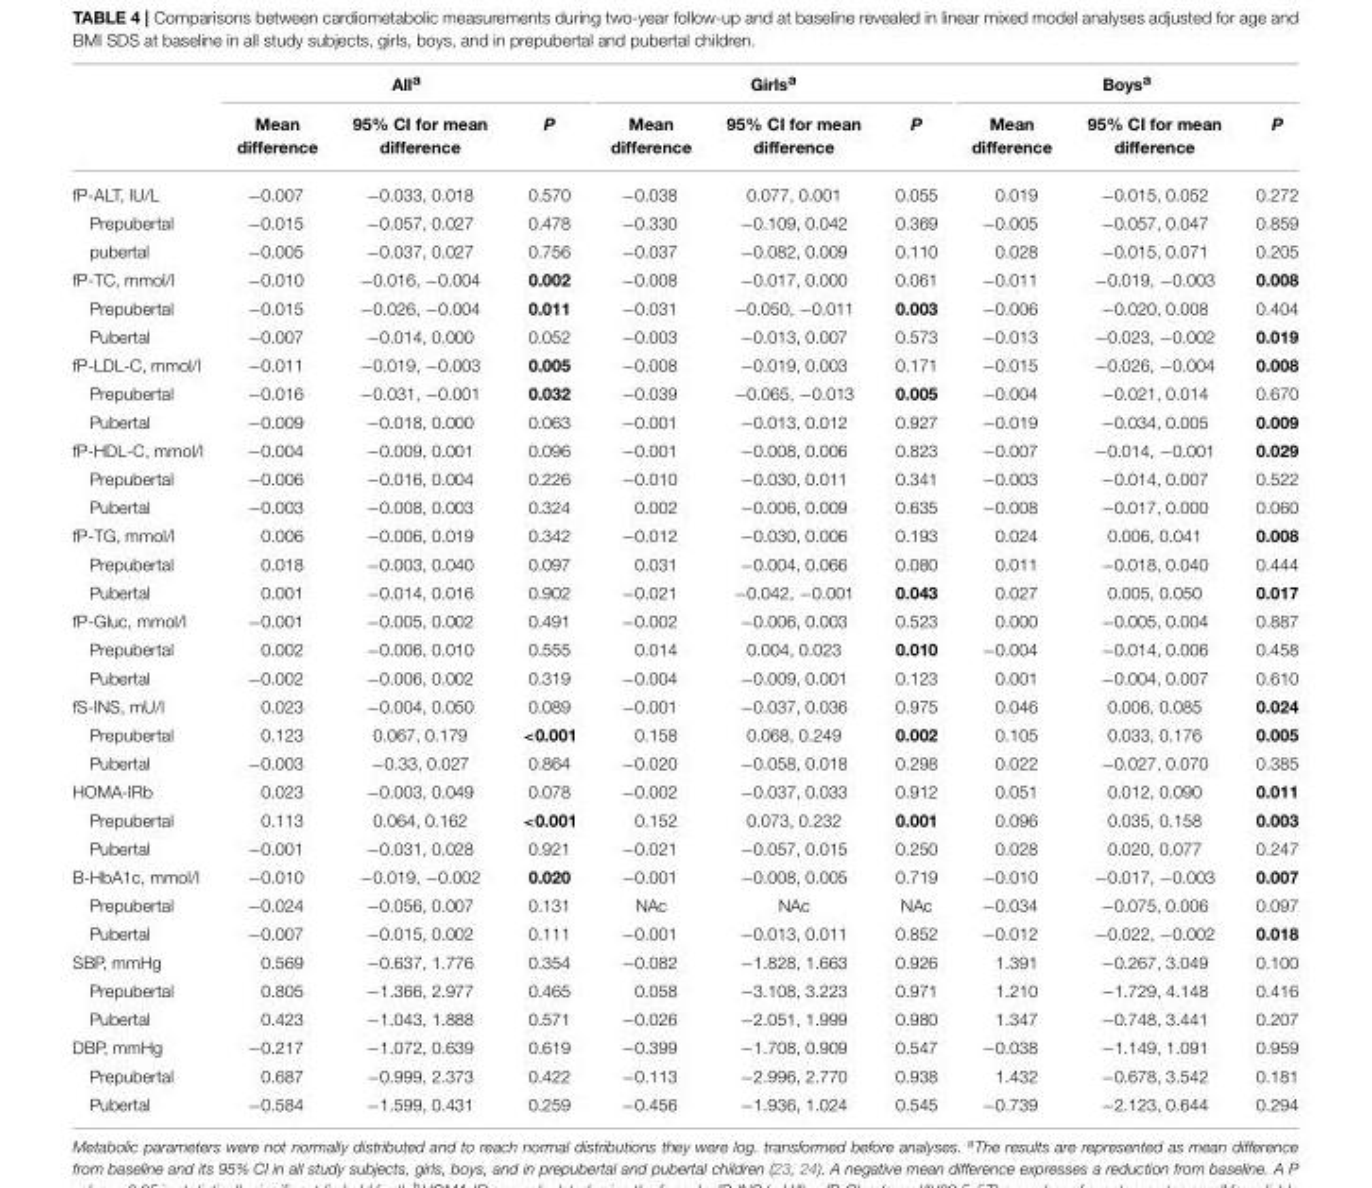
<table><thead><tr><td rowspan="2"></td><td colspan="3">All<sup>a</sup></td><td colspan="3">Girls<sup>a</sup></td><td colspan="3">Boys<sup>a</sup></td></tr><tr><td>Mean difference</td><td>95% CI for mean difference</td><td>P</td><td>Mean difference</td><td>95% CI for mean difference</td><td>P</td><td>Mean difference</td><td>95% CI for mean difference</td><td>P</td></tr></thead><tbody><tr><td>fP-ALT, IU/L</td><td>−0.007</td><td>−0.033, 0.018</td><td>0.570</td><td>−0.038</td><td>0.077, 0.001</td><td>0.055</td><td>0.019</td><td>−0.015, 0.052</td><td>0.272</td></tr><tr><td>Prepubertal</td><td>−0.015</td><td>−0.057, 0.027</td><td>0.478</td><td>−0.330</td><td>−0.109, 0.042</td><td>0.369</td><td>−0.005</td><td>−0.057, 0.047</td><td>0.859</td></tr><tr><td>pubertal</td><td>−0.005</td><td>−0.037, 0.027</td><td>0.756</td><td>−0.037</td><td>−0.082, 0.009</td><td>0.110</td><td>0.028</td><td>−0.015, 0.071</td><td>0.205</td></tr><tr><td>fP-TC, mmol/l</td><td>−0.010</td><td>−0.016, −0.004</td><td>0.002</td><td>−0.008</td><td>−0.017, 0.000</td><td>0.061</td><td>−0.011</td><td>−0.019, −0.003</td><td>0.008</td></tr><tr><td>Prepubertal</td><td>−0.015</td><td>−0.026, −0.004</td><td>0.011</td><td>−0.031</td><td>−0.050, −0.011</td><td>0.003</td><td>−0.006</td><td>−0.020, 0.008</td><td>0.404</td></tr><tr><td>Pubertal</td><td>−0.007</td><td>−0.014, 0.000</td><td>0.052</td><td>−0.003</td><td>−0.013, 0.007</td><td>0.573</td><td>−0.013</td><td>−0.023, −0.002</td><td>0.019</td></tr><tr><td>fP-LDL-C, mmol/l</td><td>−0.011</td><td>−0.019, −0.003</td><td>0.005</td><td>−0.008</td><td>−0.019, 0.003</td><td>0.171</td><td>−0.015</td><td>−0.026, −0.004</td><td>0.008</td></tr><tr><td>Prepubertal</td><td>−0.016</td><td>−0.031, −0.001</td><td>0.032</td><td>−0.039</td><td>−0.065, −0.013</td><td>0.005</td><td>−0.004</td><td>−0.021, 0.014</td><td>0.670</td></tr><tr><td>Pubertal</td><td>−0.009</td><td>−0.018, 0.000</td><td>0.063</td><td>−0.001</td><td>−0.013, 0.012</td><td>0.927</td><td>−0.019</td><td>−0.034, 0.005</td><td>0.009</td></tr><tr><td>fP-HDL-C, mmol/l</td><td>−0.004</td><td>−0.009, 0.001</td><td>0.096</td><td>−0.001</td><td>−0.008, 0.006</td><td>0.823</td><td>−0.007</td><td>−0.014, −0.001</td><td>0.029</td></tr><tr><td>Prepubertal</td><td>−0.006</td><td>−0.016, 0.004</td><td>0.226</td><td>−0.010</td><td>−0.030, 0.011</td><td>0.341</td><td>−0.003</td><td>−0.014, 0.007</td><td>0.522</td></tr><tr><td>Pubertal</td><td>−0.003</td><td>−0.008, 0.003</td><td>0.324</td><td>0.002</td><td>−0.006, 0.009</td><td>0.635</td><td>−0.008</td><td>−0.017, 0.000</td><td>0.060</td></tr><tr><td>fP-TG, mmol/l</td><td>0.006</td><td>−0.006, 0.019</td><td>0.342</td><td>−0.012</td><td>−0.030, 0.006</td><td>0.193</td><td>0.024</td><td>0.006, 0.041</td><td>0.008</td></tr><tr><td>Prepubertal</td><td>0.018</td><td>−0.003, 0.040</td><td>0.097</td><td>0.031</td><td>−0.004, 0.066</td><td>0.080</td><td>0.011</td><td>−0.018, 0.040</td><td>0.444</td></tr><tr><td>Pubertal</td><td>0.001</td><td>−0.014, 0.016</td><td>0.902</td><td>−0.021</td><td>−0.042, −0.001</td><td>0.043</td><td>0.027</td><td>0.005, 0.050</td><td>0.017</td></tr><tr><td>fP-Gluc, mmol/l</td><td>−0.001</td><td>−0.005, 0.002</td><td>0.491</td><td>−0.002</td><td>−0.006, 0.003</td><td>0.523</td><td>0.000</td><td>−0.005, 0.004</td><td>0.887</td></tr><tr><td>Prepubertal</td><td>0.002</td><td>−0.006, 0.010</td><td>0.555</td><td>0.014</td><td>0.004, 0.023</td><td>0.010</td><td>−0.004</td><td>−0.014, 0.006</td><td>0.458</td></tr><tr><td>Pubertal</td><td>−0.002</td><td>−0.006, 0.002</td><td>0.319</td><td>−0.004</td><td>−0.009, 0.001</td><td>0.123</td><td>0.001</td><td>−0.004, 0.007</td><td>0.610</td></tr><tr><td>fS-INS, mU/l</td><td>0.023</td><td>−0.004, 0.050</td><td>0.089</td><td>−0.001</td><td>−0.037, 0.036</td><td>0.975</td><td>0.046</td><td>0.006, 0.085</td><td>0.024</td></tr><tr><td>Prepubertal</td><td>0.123</td><td>0.067, 0.179</td><td>&lt;0.001</td><td>0.158</td><td>0.068, 0.249</td><td>0.002</td><td>0.105</td><td>0.033, 0.176</td><td>0.005</td></tr><tr><td>Pubertal</td><td>−0.003</td><td>−0.33, 0.027</td><td>0.864</td><td>−0.020</td><td>−0.058, 0.018</td><td>0.298</td><td>0.022</td><td>−0.027, 0.070</td><td>0.385</td></tr><tr><td>HOMA-IRb</td><td>0.023</td><td>−0.003, 0.049</td><td>0.078</td><td>−0.002</td><td>−0.037, 0.033</td><td>0.912</td><td>0.051</td><td>0.012, 0.090</td><td>0.011</td></tr><tr><td>Prepubertal</td><td>0.113</td><td>0.064, 0.162</td><td>&lt;0.001</td><td>0.152</td><td>0.073, 0.232</td><td>0.001</td><td>0.096</td><td>0.035, 0.158</td><td>0.003</td></tr><tr><td>Pubertal</td><td>−0.001</td><td>−0.031, 0.028</td><td>0.921</td><td>−0.021</td><td>−0.057, 0.015</td><td>0.250</td><td>0.028</td><td>0.020, 0.077</td><td>0.247</td></tr><tr><td>B-HbA1c, mmol/l</td><td>−0.010</td><td>−0.019, −0.002</td><td>0.020</td><td>−0.001</td><td>−0.008, 0.005</td><td>0.719</td><td>−0.010</td><td>−0.017, −0.003</td><td>0.007</td></tr><tr><td>Prepubertal</td><td>−0.024</td><td>−0.056, 0.007</td><td>0.131</td><td>NAc</td><td>NAc</td><td>NAc</td><td>−0.034</td><td>−0.075, 0.006</td><td>0.097</td></tr><tr><td>Pubertal</td><td>−0.007</td><td>−0.015, 0.002</td><td>0.111</td><td>−0.001</td><td>−0.013, 0.011</td><td>0.852</td><td>−0.012</td><td>−0.022, −0.002</td><td>0.018</td></tr><tr><td>SBP, mmHg</td><td>0.569</td><td>−0.637, 1.776</td><td>0.354</td><td>−0.082</td><td>−1.828, 1.663</td><td>0.926</td><td>1.391</td><td>−0.267, 3.049</td><td>0.100</td></tr><tr><td>Prepubertal</td><td>0.805</td><td>−1.366, 2.977</td><td>0.465</td><td>0.058</td><td>−3.108, 3.223</td><td>0.971</td><td>1.210</td><td>−1.729, 4.148</td><td>0.416</td></tr><tr><td>Pubertal</td><td>0.423</td><td>−1.043, 1.888</td><td>0.571</td><td>−0.026</td><td>−2.051, 1.999</td><td>0.980</td><td>1.347</td><td>−0.748, 3.441</td><td>0.207</td></tr><tr><td>DBP, mmHg</td><td>−0.217</td><td>−1.072, 0.639</td><td>0.619</td><td>−0.399</td><td>−1.708, 0.909</td><td>0.547</td><td>−0.038</td><td>−1.149, 1.091</td><td>0.959</td></tr><tr><td>Prepubertal</td><td>0.687</td><td>−0.999, 2.373</td><td>0.422</td><td>−0.113</td><td>−2.996, 2.770</td><td>0.938</td><td>1.432</td><td>−0.678, 3.542</td><td>0.181</td></tr><tr><td>Pubertal</td><td>−0.584</td><td>−1.599, 0.431</td><td>0.259</td><td>−0.456</td><td>−1.936, 1.024</td><td>0.545</td><td>−0.739</td><td>−2.123, 0.644</td><td>0.294</td></tr></tbody></table>